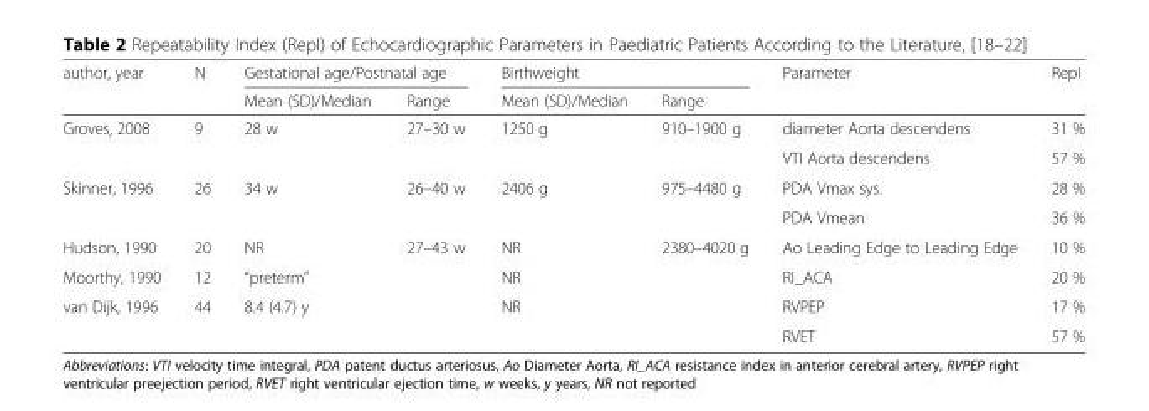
<table><thead><tr><td rowspan="2">author, year</td><td rowspan="2">N</td><td colspan="2">Gestational age/Postnatal age</td><td colspan="2">Birthweight</td><td rowspan="2">Parameter</td><td rowspan="2">RepI</td></tr><tr><td>Mean (SD)/Median</td><td>Range</td><td>Mean (SD)/Median</td><td>Range</td></tr></thead><tbody><tr><td rowspan="2">Groves, 2008</td><td rowspan="2">9</td><td rowspan="2">28 w</td><td rowspan="2">27–30 w</td><td rowspan="2">1250 g</td><td rowspan="2">910–1900 g</td><td>diameter Aorta descendens</td><td>31 %</td></tr><tr><td>VTI Aorta descendens</td><td>57 %</td></tr><tr><td rowspan="2">Skinner, 1996</td><td rowspan="2">26</td><td rowspan="2">34 w</td><td rowspan="2">26–40 w</td><td rowspan="2">2406 g</td><td rowspan="2">975–4480 g</td><td>PDA Vmax sys.</td><td>28 %</td></tr><tr><td>PDA Vmean</td><td>36 %</td></tr><tr><td>Hudson, 1990</td><td>20</td><td>NR</td><td>27–43 w</td><td>NR</td><td>2380–4020 g</td><td>Ao Leading Edge to Leading Edge</td><td>10 %</td></tr><tr><td>Moorthy, 1990</td><td>12</td><td colspan="2">“preterm”</td><td colspan="2">NR</td><td>RI_ACA</td><td>20 %</td></tr><tr><td rowspan="2">van Dijk, 1996</td><td rowspan="2">44</td><td rowspan="2" colspan="2">8.4 (4.7) y</td><td rowspan="2" colspan="2">NR</td><td>RVPEP</td><td>17 %</td></tr><tr><td>RVET</td><td>57 %</td></tr></tbody></table>